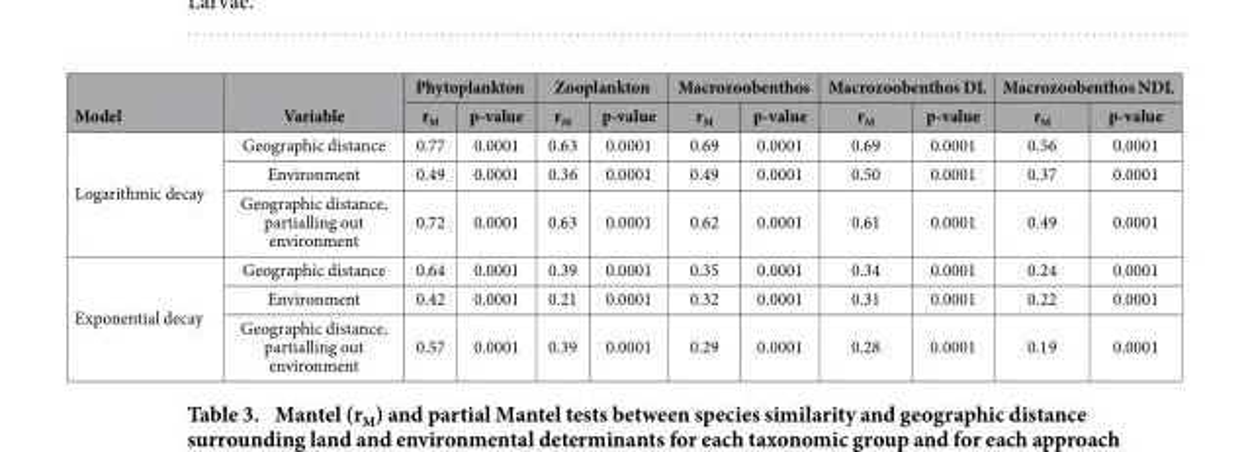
<table><thead><tr><td rowspan="2">Model</td><td rowspan="2">Variable</td><td colspan="2">Phytoplankton</td><td colspan="2">Zooplankton</td><td colspan="2">Macrozoobenthos</td><td colspan="2">Macrozoobenthos DL</td><td colspan="2">Macrozoobenthos NDL</td></tr><tr><td>r<sub>M</sub></td><td>p-value</td><td>r<sub>M</sub></td><td>p-value</td><td>r<sub>M</sub></td><td>p-value</td><td>r<sub>M</sub></td><td>p-value</td><td>r<sub>M</sub></td><td>p-value</td></tr></thead><tbody><tr><td rowspan="3">Logarithmic decay</td><td>Geographic distance</td><td>0.77</td><td>0.0001</td><td>0.63</td><td>0.0001</td><td>0.69</td><td>0.0001</td><td>0.69</td><td>0.0001</td><td>0.56</td><td>0.0001</td></tr><tr><td>Environment</td><td>0.49</td><td>0.0001</td><td>0.36</td><td>0.0001</td><td>0.49</td><td>0.0001</td><td>0.50</td><td>0.0001</td><td>0.37</td><td>0.0001</td></tr><tr><td>Geographic distance, partialling out environment</td><td>0.72</td><td>0.0001</td><td>0.63</td><td>0.0001</td><td>0.62</td><td>0.0001</td><td>0.61</td><td>0.0001</td><td>0.49</td><td>0.0001</td></tr><tr><td rowspan="3">Exponential decay</td><td>Geographic distance</td><td>0.64</td><td>0.0001</td><td>0.39</td><td>0.0001</td><td>0.35</td><td>0.0001</td><td>0.34</td><td>0.0001</td><td>0.24</td><td>0.0001</td></tr><tr><td>Environment</td><td>0.42</td><td>0.0001</td><td>0.21</td><td>0.0001</td><td>0.32</td><td>0.0001</td><td>0.31</td><td>0.0001</td><td>0.22</td><td>0.0001</td></tr><tr><td>Geographic distance, partialling out environment</td><td>0.57</td><td>0.0001</td><td>0.39</td><td>0.0001</td><td>0.29</td><td>0.0001</td><td>0.28</td><td>0.0001</td><td>0.19</td><td>0.0001</td></tr></tbody></table>